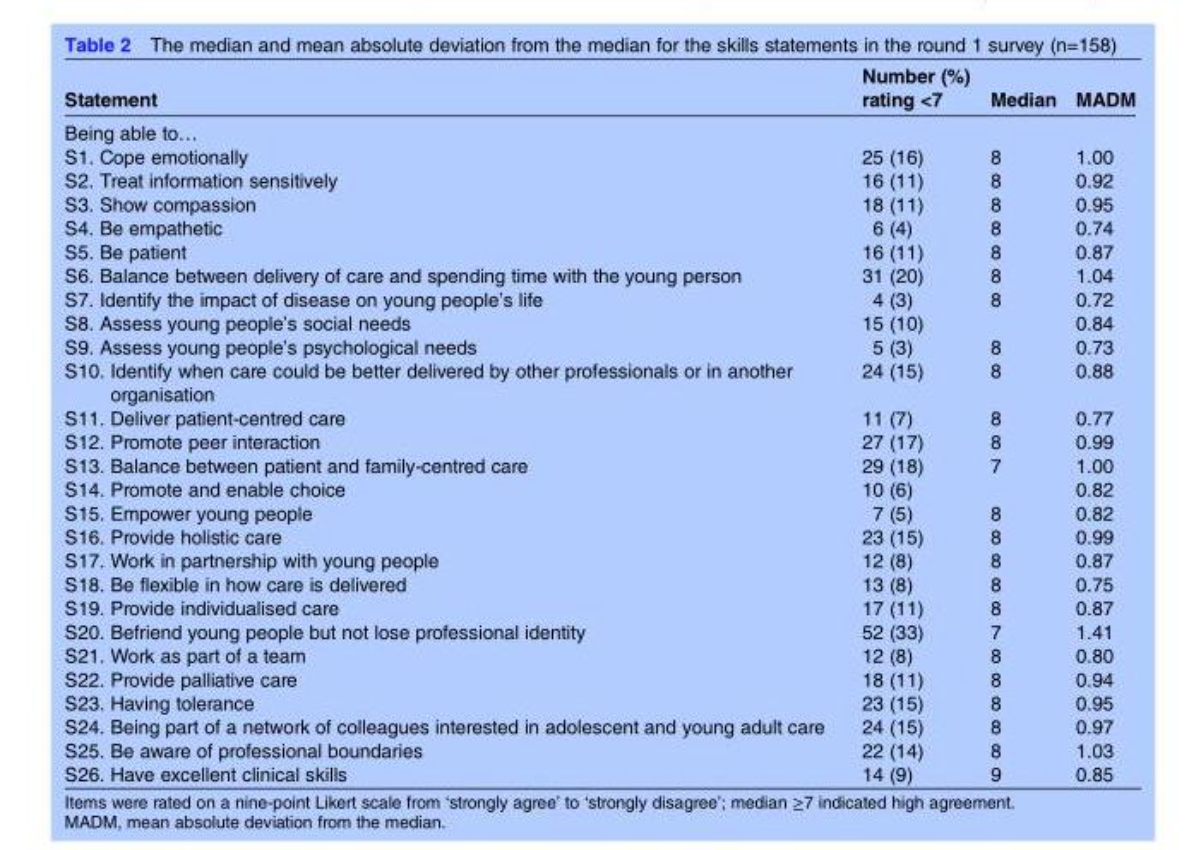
<table><thead><tr><td>Statement</td><td>Number (%) rating &lt;7</td><td>Median</td><td>MADM</td></tr></thead><tbody><tr><td colspan="4">Being able to…</td></tr><tr><td>S1. Cope emotionally</td><td>25 (16)</td><td>8</td><td>1.00</td></tr><tr><td>S2. Treat information sensitively</td><td>16 (11)</td><td>8</td><td>0.92</td></tr><tr><td>S3. Show compassion</td><td>18 (11)</td><td>8</td><td>0.95</td></tr><tr><td>S4. Be empathetic</td><td>6 (4)</td><td>8</td><td>0.74</td></tr><tr><td>S5. Be patient</td><td>16 (11)</td><td>8</td><td>0.87</td></tr><tr><td>S6. Balance between delivery of care and spending time with the young person</td><td>31 (20)</td><td>8</td><td>1.04</td></tr><tr><td>S7. Identify the impact of disease on young people’s life</td><td>4 (3)</td><td>8</td><td>0.72</td></tr><tr><td>S8. Assess young people’s social needs</td><td>15 (10)</td><td></td><td>0.84</td></tr><tr><td>S9. Assess young people’s psychological needs</td><td>5 (3)</td><td>8</td><td>0.73</td></tr><tr><td>S10. Identify when care could be better delivered by other professionals or in another organisation</td><td>24 (15)</td><td>8</td><td>0.88</td></tr><tr><td>S11. Deliver patient-centred care</td><td>11 (7)</td><td>8</td><td>0.77</td></tr><tr><td>S12. Promote peer interaction</td><td>27 (17)</td><td>8</td><td>0.99</td></tr><tr><td>S13. Balance between patient and family-centred care</td><td>29 (18)</td><td>7</td><td>1.00</td></tr><tr><td>S14. Promote and enable choice</td><td>10 (6)</td><td></td><td>0.82</td></tr><tr><td>S15. Empower young people</td><td>7 (5)</td><td>8</td><td>0.82</td></tr><tr><td>S16. Provide holistic care</td><td>23 (15)</td><td>8</td><td>0.99</td></tr><tr><td>S17. Work in partnership with young people</td><td>12 (8)</td><td>8</td><td>0.87</td></tr><tr><td>S18. Be flexible in how care is delivered</td><td>13 (8)</td><td>8</td><td>0.75</td></tr><tr><td>S19. Provide individualised care</td><td>17 (11)</td><td>8</td><td>0.87</td></tr><tr><td>S20. Befriend young people but not lose professional identity</td><td>52 (33)</td><td>7</td><td>1.41</td></tr><tr><td>S21. Work as part of a team</td><td>12 (8)</td><td>8</td><td>0.80</td></tr><tr><td>S22. Provide palliative care</td><td>18 (11)</td><td>8</td><td>0.94</td></tr><tr><td>S23. Having tolerance</td><td>23 (15)</td><td>8</td><td>0.95</td></tr><tr><td>S24. Being part of a network of colleagues interested in adolescent and young adult care</td><td>24 (15)</td><td>8</td><td>0.97</td></tr><tr><td>S25. Be aware of professional boundaries</td><td>22 (14)</td><td>8</td><td>1.03</td></tr><tr><td>S26. Have excellent clinical skills</td><td>14 (9)</td><td>9</td><td>0.85</td></tr></tbody></table>